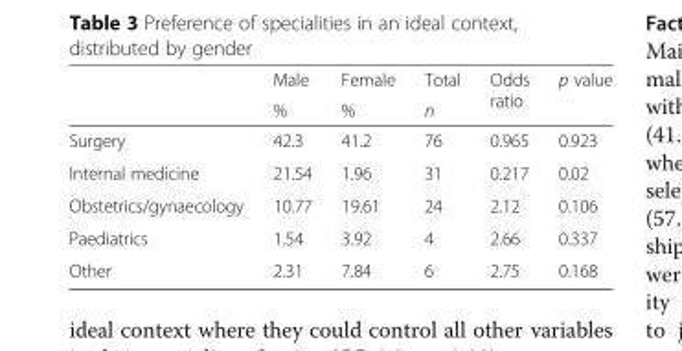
<table><thead><tr><td rowspan="2"></td><td rowspan="2">Male %</td><td rowspan="2">Female %</td><td rowspan="2">Total n</td><td rowspan="2">Odds ratio</td><td rowspan="2">p value</td></tr><tr></tr></thead><tbody><tr><td>Surgery</td><td>42.3</td><td>41.2</td><td>76</td><td>0.965</td><td>0.923</td></tr><tr><td>Internal medicine</td><td>21.54</td><td>1.96</td><td>31</td><td>0.217</td><td>0.02</td></tr><tr><td>Obstetrics/gynaecology</td><td>10.77</td><td>19.61</td><td>24</td><td>2.12</td><td>0.106</td></tr><tr><td>Paediatrics</td><td>1.54</td><td>3.92</td><td>4</td><td>2.66</td><td>0.337</td></tr><tr><td>Other</td><td>2.31</td><td>7.84</td><td>6</td><td>2.75</td><td>0.168</td></tr></tbody></table>